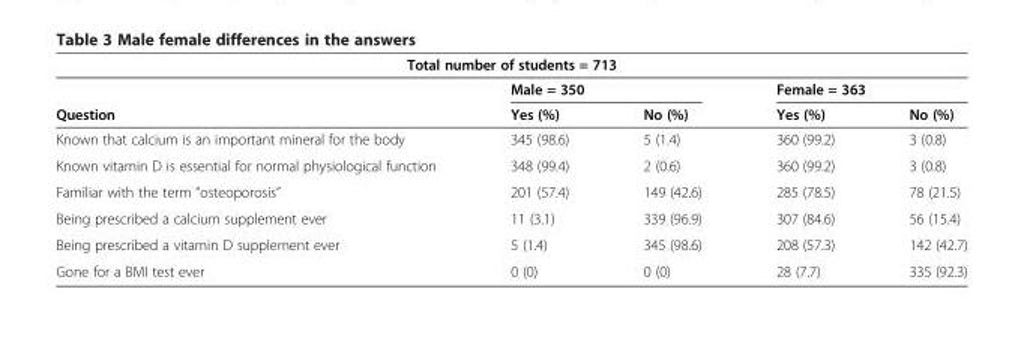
<table><thead><tr><td colspan="5">Total number of students = 713</td></tr><tr><td rowspan="2">Question</td><td colspan="2">Male = 350</td><td colspan="2">Female = 363</td></tr><tr><td>Yes (%)</td><td>No (%)</td><td>Yes (%)</td><td>No (%)</td></tr></thead><tbody><tr><td>Known that calcium is an important mineral for the body</td><td>345 (98.6)</td><td>5 (1.4)</td><td>360 (99.2)</td><td>3 (0.8)</td></tr><tr><td>Known vitamin D is essential for normal physiological function</td><td>348 (99.4)</td><td>2 (0.6)</td><td>360 (99.2)</td><td>3 (0.8)</td></tr><tr><td>Familiar with the term “osteoporosis”</td><td>201 (57.4)</td><td>149 (42.6)</td><td>285 (78.5)</td><td>78 (21.5)</td></tr><tr><td>Being prescribed a calcium supplement ever</td><td>11 (3.1)</td><td>339 (96.9)</td><td>307 (84.6)</td><td>56 (15.4)</td></tr><tr><td>Being prescribed a vitamin D supplement ever</td><td>5 (1.4)</td><td>345 (98.6)</td><td>208 (57.3)</td><td>142 (42.7)</td></tr><tr><td>Gone for a BMI test ever</td><td>0 (0)</td><td>0 (0)</td><td>28 (7.7)</td><td>335 (92.3)</td></tr></tbody></table>